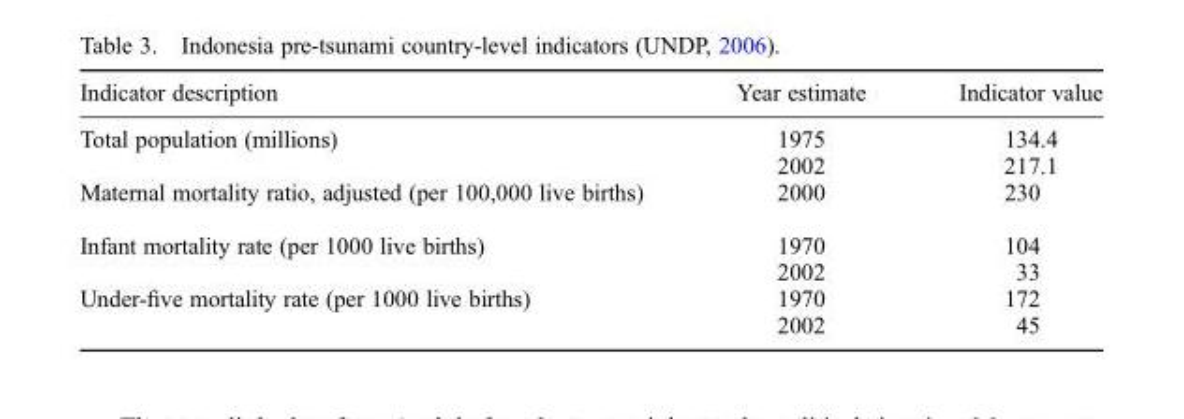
<table><thead><tr><td>Indicator description</td><td>Year estimate</td><td>Indicator value</td></tr></thead><tbody><tr><td rowspan="2">Total population (millions)</td><td>1975</td><td>134.4</td></tr><tr><td>2002</td><td>217.1</td></tr><tr><td>Maternal mortality ratio, adjusted (per 100,000 live births)</td><td>2000</td><td>230</td></tr><tr><td rowspan="2">Infant mortality rate (per 1000 live births)</td><td>1970</td><td>104</td></tr><tr><td>2002</td><td>33</td></tr><tr><td rowspan="2">Under-five mortality rate (per 1000 live births)</td><td>1970</td><td>172</td></tr><tr><td>2002</td><td>45</td></tr></tbody></table>